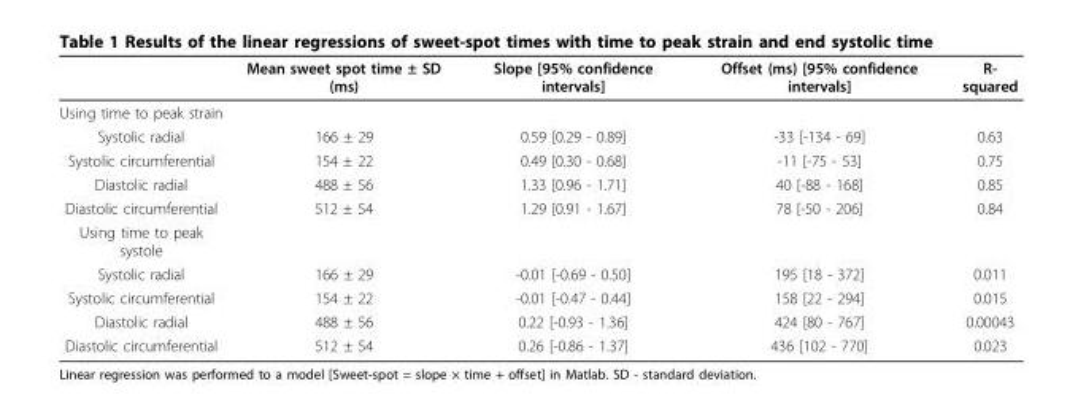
<table><thead><tr><td></td><td>Mean sweet spot time ± SD (ms)</td><td>Slope [95% confidence intervals]</td><td>Offset (ms) [95% confidence intervals]</td><td>R- squared</td></tr></thead><tbody><tr><td colspan="5">Using time to peak strain</td></tr><tr><td>Systolic radial</td><td>166 ± 29</td><td>0.59 [0.29 - 0.89]</td><td>-33 [-134 - 69]</td><td>0.63</td></tr><tr><td>Systolic circumferential</td><td>154 ± 22</td><td>0.49 [0.30 - 0.68]</td><td>-11 [-75 - 53]</td><td>0.75</td></tr><tr><td>Diastolic radial</td><td>488 ± 56</td><td>1.33 [0.96 - 1.71]</td><td>40 [-88 - 168]</td><td>0.85</td></tr><tr><td>Diastolic circumferential</td><td>512 ± 54</td><td>1.29 [0.91 - 1.67]</td><td>78 [-50 - 206]</td><td>0.84</td></tr><tr><td colspan="5">Using time to peak systole</td></tr><tr><td>Systolic radial</td><td>166 ± 29</td><td>-0.01 [-0.69 - 0.50]</td><td>195 [18 - 372]</td><td>0.011</td></tr><tr><td>Systolic circumferential</td><td>154 ± 22</td><td>-0.01 [-0.47 - 0.44]</td><td>158 [22 - 294]</td><td>0.015</td></tr><tr><td>Diastolic radial</td><td>488 ± 56</td><td>0.22 [-0.93 - 1.36]</td><td>424 [80 - 767]</td><td>0.00043</td></tr><tr><td>Diastolic circumferential</td><td>512 ± 54</td><td>0.26 [-0.86 - 1.37]</td><td>436 [102 - 770]</td><td>0.023</td></tr></tbody></table>